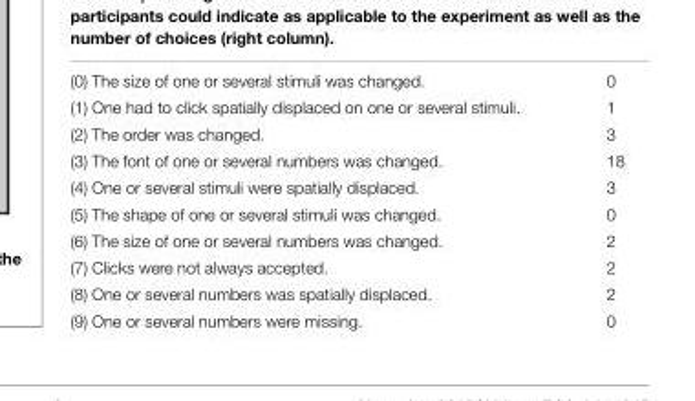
<table><tbody><tr><td>(0) The size of one or several stimuli was changed.</td><td>0</td></tr><tr><td>(1) One had to click spatially displaced on one or several stimuli.</td><td>1</td></tr><tr><td>(2) The order was changed.</td><td>3</td></tr><tr><td>(3) The font of one or several numbers was changed.</td><td>18</td></tr><tr><td>(4) One or several stimuli were spatially displaced.</td><td>3</td></tr><tr><td>(5) The shape of one or several stimuli was changed.</td><td>0</td></tr><tr><td>(6) The size of one or several numbers was changed.</td><td>2</td></tr><tr><td>(7) Clicks were not always accepted.</td><td>2</td></tr><tr><td>(8) One or several numbers was spatially displaced.</td><td>2</td></tr><tr><td>(9) One or several numbers were missing.</td><td>0</td></tr></tbody></table>